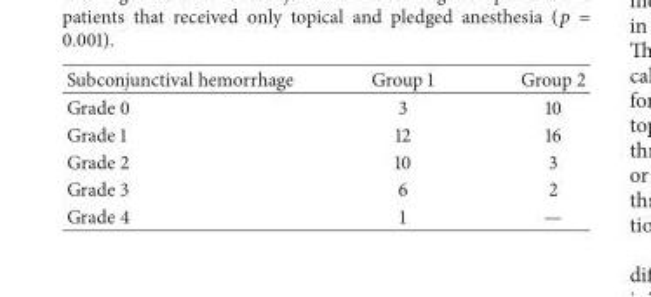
<table><thead><tr><td>Subconjunctival hemorrhage</td><td>Group 1</td><td>Group 2</td></tr></thead><tbody><tr><td>Grade 0</td><td>3</td><td>10</td></tr><tr><td>Grade 1</td><td>12</td><td>16</td></tr><tr><td>Grade 2</td><td>10</td><td>3</td></tr><tr><td>Grade 3</td><td>6</td><td>2</td></tr><tr><td>Grade 4</td><td>1</td><td>—</td></tr></tbody></table>